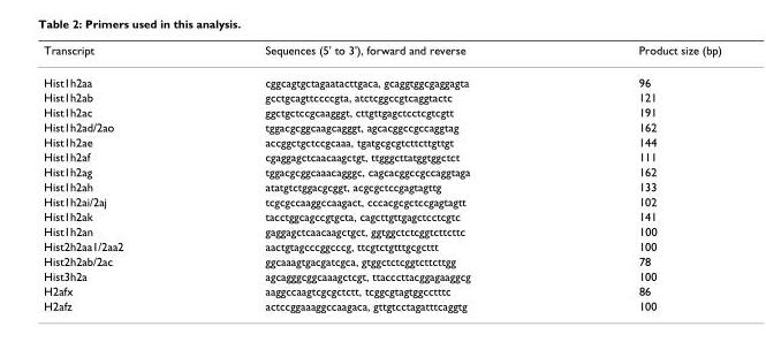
<table><thead><tr><td>Transcript</td><td>Sequences (5&#x27; to 3&#x27;), forward and reverse</td><td>Product size (bp)</td></tr></thead><tbody><tr><td>Hist1h2aa</td><td>cggcagtgctagaatacttgaca, gcaggtggcgaggagta</td><td>96</td></tr><tr><td>Hist1h2ab</td><td>gcctgcagttccccgta, atctcggccgtcaggtactc</td><td>121</td></tr><tr><td>Hist1h2ac</td><td>ggctgctccgcaagggt, cttgttgagctcctcgtcgtt</td><td>191</td></tr><tr><td>Hist1h2ad/2ao</td><td>tggacgcggcaagcagggt, agcacggccgccaggtag</td><td>162</td></tr><tr><td>Hist1h2ae</td><td>accggctgctccgcaaa, tgatgcgcgtcttcttgttgt</td><td>144</td></tr><tr><td>Hist1h2af</td><td>cgaggagctcaacaagctgt, ttgggcttatggtggctct</td><td>111</td></tr><tr><td>Hist1h2ag</td><td>tggacgcggcaaacagggc, cagcacggccgccaggtaga</td><td>162</td></tr><tr><td>Hist1h2ah</td><td>atatgtctggacgcggt, acgcgctccgagtagttg</td><td>133</td></tr><tr><td>Hist1h2ai/2aj</td><td>tcgcgccaaggccaagact, cccacgcgctccgagtagtt</td><td>102</td></tr><tr><td>Hist1h2ak</td><td>tacctggcagccgtgcta, cagcttgttgagctcctcgtc</td><td>141</td></tr><tr><td>Hist1h2an</td><td>gaggagctcaacaagctgct, ggtggctctcggtcttcttc</td><td>100</td></tr><tr><td>Hist2h2aa1/2aa2</td><td>aactgtagcccggcccg, ttcgtctgtttgcgcttt</td><td>100</td></tr><tr><td>Hist2h2ab/2ac</td><td>ggcaaagtgacgatcgca, gtggctctcggtcttcttgg</td><td>78</td></tr><tr><td>Hist3h2a</td><td>agcagggcggcaaagctcgt, ttacccttacggagaaggcg</td><td>100</td></tr><tr><td>H2afx</td><td>aaggccaagtcgcgctctt, tcggcgtagtggcctttc</td><td>86</td></tr><tr><td>H2afz</td><td>actccggaaaggccaagaca, gttgtcctagatttcaggtg</td><td>100</td></tr></tbody></table>